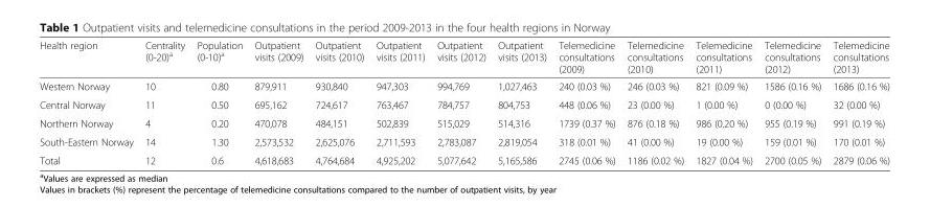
<table><thead><tr><td>Health region</td><td>Centrality (0-20)<sup>a</sup></td><td>Population (0-10)<sup>a</sup></td><td>Outpatient visits (2009)</td><td>Outpatient visits (2010)</td><td>Outpatient visits (2011)</td><td>Outpatient visits (2012)</td><td>Outpatient visits (2013)</td><td>Telemedicine consultations (2009)</td><td>Telemedicine consultations (2010)</td><td>Telemedicine consultations (2011)</td><td>Telemedicine consultations (2012)</td><td>Telemedicine consultations (2013)</td></tr></thead><tbody><tr><td>Western Norway</td><td>10</td><td>0.80</td><td>879,911</td><td>930,840</td><td>947,303</td><td>994,769</td><td>1,027,463</td><td>240 (0.03 %)</td><td>246 (0.03 %)</td><td>821 (0.09 %)</td><td>1586 (0.16 %)</td><td>1686 (0.16 %)</td></tr><tr><td>Central Norway</td><td>11</td><td>0.50</td><td>695,162</td><td>724,617</td><td>763,467</td><td>784,757</td><td>804,753</td><td>448 (0.06 %)</td><td>23 (0.00 %)</td><td>1 (0.00 %)</td><td>0 (0.00 %)</td><td>32 (0.00 %)</td></tr><tr><td>Northern Norway</td><td>4</td><td>0.20</td><td>470,078</td><td>484,151</td><td>502,839</td><td>515,029</td><td>514,316</td><td>1739 (0.37 %)</td><td>876 (0.18 %)</td><td>986 (0.20 %)</td><td>955 (0.19 %)</td><td>991 (0.19 %)</td></tr><tr><td>South-Eastern Norway</td><td>14</td><td>1.30</td><td>2,573,532</td><td>2,625,076</td><td>2,711,593</td><td>2,783,087</td><td>2,819,054</td><td>318 (0.01 %)</td><td>41 (0.00 %)</td><td>19 (0.00 %)</td><td>159 (0.01 %)</td><td>170 (0.01 %)</td></tr><tr><td>Total</td><td>12</td><td>0.6</td><td>4,618,683</td><td>4,764,684</td><td>4,925,202</td><td>5,077,642</td><td>5,165,586</td><td>2745 (0.06 %)</td><td>1186 (0.02 %)</td><td>1827 (0.04 %)</td><td>2700 (0.05 %)</td><td>2879 (0.06 %)</td></tr></tbody></table>